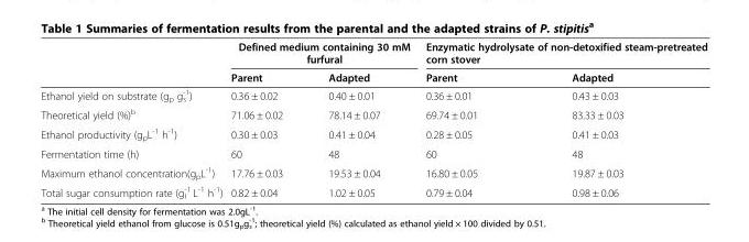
<table><thead><tr><td rowspan="2"></td><td colspan="2">Defined medium containing 30 mM furfural</td><td colspan="2">Enzymatic hydrolysate of non-detoxified steam-pretreated corn stover</td></tr><tr><td>Parent</td><td>Adapted</td><td>Parent</td><td>Adapted</td></tr></thead><tbody><tr><td>Ethanol yield on substrate (g<sub>p</sub> g<sub>s</sub> <sup>-1</sup>)</td><td>0.36 ± 0.02</td><td>0.40 ± 0.01</td><td>0.36 ± 0.01</td><td>0.43 ± 0.03</td></tr><tr><td>Theoretical yield (%)<sup>b</sup></td><td>71.06 ± 0.02</td><td>78.14 ± 0.07</td><td>69.74 ± 0.01</td><td>83.33 ± 0.03</td></tr><tr><td>Ethanol productivity (g<sub>p</sub>L<sup>-1</sup> h<sup>-1</sup>)</td><td>0.30 ± 0.03</td><td>0.41 ± 0.04</td><td>0.28 ± 0.05</td><td>0.41 ± 0.03</td></tr><tr><td>Fermentation time (h)</td><td>60</td><td>48</td><td>60</td><td>48</td></tr><tr><td>Maximum ethanol concentration(g<sub>p</sub>L<sup>-1</sup>)</td><td>17.76 ± 0.03</td><td>19.53 ± 0.04</td><td>16.80 ± 0.05</td><td>19.87 ± 0.03</td></tr><tr><td>Total sugar consumption rate (g<sub>l</sub> <sup>-1</sup> L<sup>-1</sup> h<sup>-1</sup>)</td><td>0.82 ± 0.04</td><td>1.02 ± 0.05</td><td>0.79 ± 0.04</td><td>0.98 ± 0.06</td></tr></tbody></table>